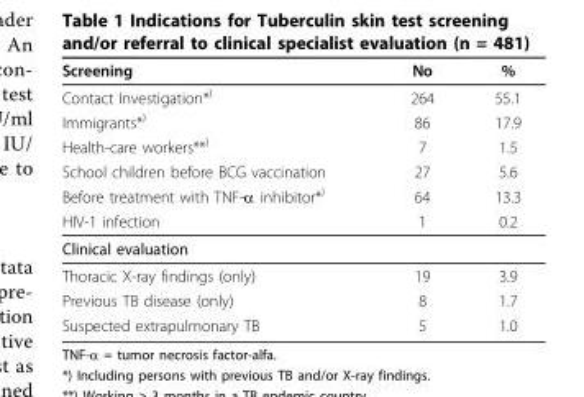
<table><thead><tr><td>Screening</td><td>No</td><td>%</td></tr></thead><tbody><tr><td>Contact Investigation*<sup>)</sup></td><td>264</td><td>55.1</td></tr><tr><td>Immigrants*<sup>)</sup></td><td>86</td><td>17.9</td></tr><tr><td>Health-care workers**<sup>)</sup></td><td>7</td><td>1.5</td></tr><tr><td>School children before BCG vaccination</td><td>27</td><td>5.6</td></tr><tr><td>Before treatment with TNF-α inhibitor*<sup>)</sup></td><td>64</td><td>13.3</td></tr><tr><td>HIV-1 infection</td><td>1</td><td>0.2</td></tr><tr><td colspan="3">Clinical evaluation</td></tr><tr><td>Thoracic X-ray findings (only)</td><td>19</td><td>3.9</td></tr><tr><td>Previous TB disease (only)</td><td>8</td><td>1.7</td></tr><tr><td>Suspected extrapulmonary TB</td><td>5</td><td>1.0</td></tr></tbody></table>